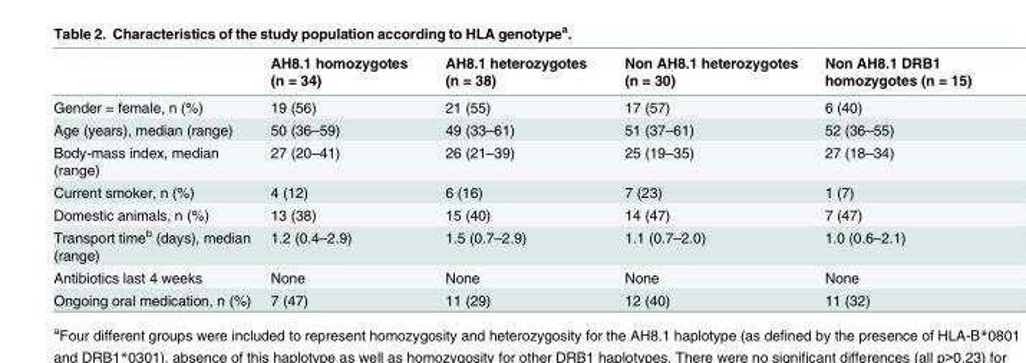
<table><thead><tr><td></td><td>AH8.1 homozygotes (n = 34)</td><td>AH8.1 heterozygotes (n = 38)</td><td>Non AH8.1 heterozygotes (n = 30)</td><td>Non AH8.1 DRB1 homozygotes (n = 15)</td></tr></thead><tbody><tr><td>Gender = female, n (%)</td><td>19 (56)</td><td>21 (55)</td><td>17 (57)</td><td>6 (40)</td></tr><tr><td>Age (years), median (range)</td><td>50 (36–59)</td><td>49 (33–61)</td><td>51 (37–61)</td><td>52 (36–55)</td></tr><tr><td>Body-mass index, median (range)</td><td>27 (20–41)</td><td>26 (21–39)</td><td>25 (19–35)</td><td>27 (18–34)</td></tr><tr><td>Current smoker, n (%)</td><td>4 (12)</td><td>6 (16)</td><td>7 (23)</td><td>1 (7)</td></tr><tr><td>Domestic animals, n (%)</td><td>13 (38)</td><td>15 (40)</td><td>14 (47)</td><td>7 (47)</td></tr><tr><td>Transport time<sup>b</sup> (days), median (range)</td><td>1.2 (0.4–2.9)</td><td>1.5 (0.7–2.9)</td><td>1.1 (0.7–2.0)</td><td>1.0 (0.6–2.1)</td></tr><tr><td>Antibiotics last 4 weeks</td><td>None</td><td>None</td><td>None</td><td>None</td></tr><tr><td>Ongoing oral medication, n (%)</td><td>7 (47)</td><td>11 (29)</td><td>12 (40)</td><td>11 (32)</td></tr></tbody></table>